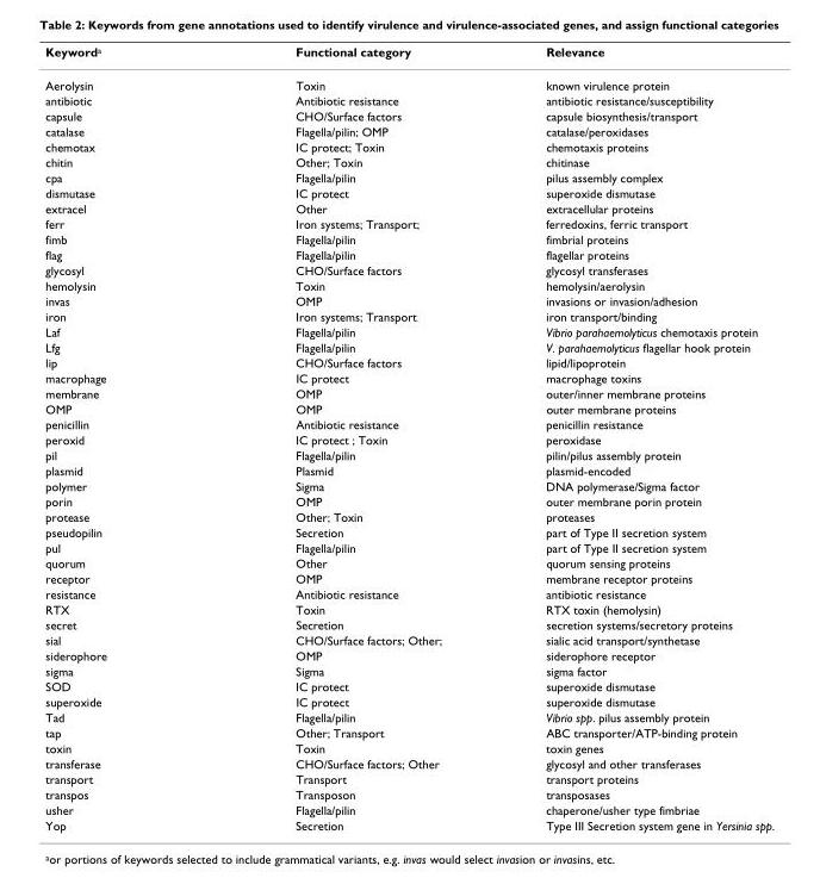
<table><thead><tr><td>Keyworda</td><td>Functional category</td><td>Relevance</td></tr></thead><tbody><tr><td>Aerolysin</td><td>Toxin</td><td>known virulence protein</td></tr><tr><td>antibiotic</td><td>Antibiotic resistance</td><td>antibiotic resistance/susceptibility</td></tr><tr><td>capsule</td><td>CHO/Surface factors</td><td>capsule biosynthesis/transport</td></tr><tr><td>catalase</td><td>Flagella/pilin; OMP</td><td>catalase/peroxidases</td></tr><tr><td>chemotax</td><td>IC protect; Toxin</td><td>chemotaxis proteins</td></tr><tr><td>chitin</td><td>Other; Toxin</td><td>chitinase</td></tr><tr><td>cpa</td><td>Flagella/pilin</td><td>pilus assembly complex</td></tr><tr><td>dismutase</td><td>IC protect</td><td>superoxide dismutase</td></tr><tr><td>extracel</td><td>Other</td><td>extracellular proteins</td></tr><tr><td>ferr</td><td>Iron systems; Transport;</td><td>ferredoxins, ferric transport</td></tr><tr><td>fimb</td><td>Flagella/pilin</td><td>fimbrial proteins</td></tr><tr><td>flag</td><td>Flagella/pilin</td><td>flagellar proteins</td></tr><tr><td>glycosyl</td><td>CHO/Surface factors</td><td>glycosyl transferases</td></tr><tr><td>hemolysin</td><td>Toxin</td><td>hemolysin/aerolysin</td></tr><tr><td>invas</td><td>OMP</td><td>invasions or invasion/adhesion</td></tr><tr><td>iron</td><td>Iron systems; Transport</td><td>iron transport/binding</td></tr><tr><td>Laf</td><td>Flagella/pilin</td><td>Vibrio parahaemolyticus chemotaxis protein</td></tr><tr><td>Lfg</td><td>Flagella/pilin</td><td>V. parahaemolyticus flagellar hook protein</td></tr><tr><td>lip</td><td>CHO/Surface factors</td><td>lipid/lipoprotein</td></tr><tr><td>macrophage</td><td>IC protect</td><td>macrophage toxins</td></tr><tr><td>membrane</td><td>OMP</td><td>outer/inner membrane proteins</td></tr><tr><td>OMP</td><td>OMP</td><td>outer membrane proteins</td></tr><tr><td>penicillin</td><td>Antibiotic resistance</td><td>penicillin resistance</td></tr><tr><td>peroxid</td><td>IC protect ; Toxin</td><td>peroxidase</td></tr><tr><td>pil</td><td>Flagella/pilin</td><td>pilin/pilus assembly protein</td></tr><tr><td>plasmid</td><td>Plasmid</td><td>plasmid-encoded</td></tr><tr><td>polymer</td><td>Sigma</td><td>DNA polymerase/Sigma factor</td></tr><tr><td>porin</td><td>OMP</td><td>outer membrane porin protein</td></tr><tr><td>protease</td><td>Other; Toxin</td><td>proteases</td></tr><tr><td>pseudopilin</td><td>Secretion</td><td>part of Type II secretion system</td></tr><tr><td>pul</td><td>Flagella/pilin</td><td>part of Type II secretion system</td></tr><tr><td>quorum</td><td>Other</td><td>quorum sensing proteins</td></tr><tr><td>receptor</td><td>OMP</td><td>membrane receptor proteins</td></tr><tr><td>resistance</td><td>Antibiotic resistance</td><td>antibiotic resistance</td></tr><tr><td>RTX</td><td>Toxin</td><td>RTX toxin (hemolysin)</td></tr><tr><td>secret</td><td>Secretion</td><td>secretion systems/secretory proteins</td></tr><tr><td>sial</td><td>CHO/Surface factors; Other;</td><td>sialic acid transport/synthetase</td></tr><tr><td>siderophore</td><td>OMP</td><td>siderophore receptor</td></tr><tr><td>sigma</td><td>Sigma</td><td>sigma factor</td></tr><tr><td>SOD</td><td>IC protect</td><td>superoxide dismutase</td></tr><tr><td>superoxide</td><td>IC protect</td><td>superoxide dismutase</td></tr><tr><td>Tad</td><td>Flagella/pilin</td><td>Vibrio spp. pilus assembly protein</td></tr><tr><td>tap</td><td>Other; Transport</td><td>ABC transporter/ATP-binding protein</td></tr><tr><td>toxin</td><td>Toxin</td><td>toxin genes</td></tr><tr><td>transferase</td><td>CHO/Surface factors; Other</td><td>glycosyl and other transferases</td></tr><tr><td>transport</td><td>Transport</td><td>transport proteins</td></tr><tr><td>transpos</td><td>Transposon</td><td>transposases</td></tr><tr><td>usher</td><td>Flagella/pilin</td><td>chaperone/usher type fimbriae</td></tr><tr><td>Yop</td><td>Secretion</td><td>Type III Secretion system gene in Yersinia spp.</td></tr></tbody></table>